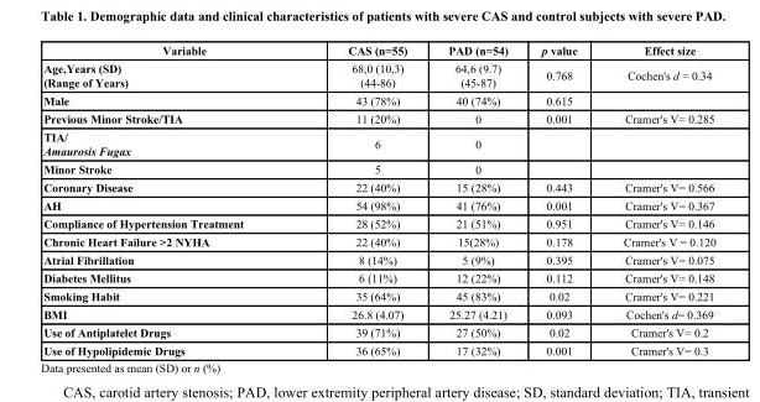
<table><thead><tr><td>Variable</td><td>CAS (n=55)</td><td>PAD (n=54)</td><td>p value</td><td>Effect size</td></tr></thead><tbody><tr><td>Age,Years (SD) (Range of Years)</td><td>68,0 (10,3) (44-86)</td><td>64,6 (9.7) (45-87)</td><td>0.768</td><td>Cochen&#x27;s d = 0.34</td></tr><tr><td>Male</td><td>43 (78%)</td><td>40 (74%)</td><td>0.615</td><td></td></tr><tr><td>Previous Minor Stroke/TIA</td><td>11 (20%)</td><td>0</td><td>0.001</td><td>Cramer&#x27;s V= 0.285</td></tr><tr><td>TIA/ Amaurosis Fugax</td><td>6</td><td>0</td><td></td><td></td></tr><tr><td>Minor Stroke</td><td>5</td><td>0</td><td></td><td></td></tr><tr><td>Coronary Disease</td><td>22 (40%)</td><td>15 (28%)</td><td>0.443</td><td>Cramer&#x27;s V= 0.566</td></tr><tr><td>AH</td><td>54 (98%)</td><td>41 (76%)</td><td>0.001</td><td>Cramer&#x27;s V= 0.367</td></tr><tr><td>Compliance of Hypertension Treatment</td><td>28 (52%)</td><td>21 (51%)</td><td>0.951</td><td>Cramer&#x27;s V= 0.146</td></tr><tr><td>Chronic Heart Failure &gt;2 NYHA</td><td>22 (40%)</td><td>15(28%)</td><td>0.178</td><td>Cramer&#x27;s V = 0.120</td></tr><tr><td>Atrial Fibrillation</td><td>8 (14%)</td><td>5 (9%)</td><td>0.395</td><td>Cramer&#x27;s V= 0.075</td></tr><tr><td>Diabetes Mellitus</td><td>6 (11%)</td><td>12 (22%)</td><td>0.112</td><td>Cramer&#x27;s V= 0.148</td></tr><tr><td>Smoking Habit</td><td>35 (64%)</td><td>45 (83%)</td><td>0.02</td><td>Cramer&#x27;s V= 0.221</td></tr><tr><td>BMI</td><td>26.8 (4.07)</td><td>25.27 (4.21)</td><td>0.093</td><td>Cochen&#x27;s d= 0.369</td></tr><tr><td>Use of Antiplatelet Drugs</td><td>39 (71%)</td><td>27 (50%)</td><td>0.02</td><td>Cramer&#x27;s V= 0.2</td></tr><tr><td>Use of Hypolipidemic Drugs</td><td>36 (65%)</td><td>17 (32%)</td><td>0.001</td><td>Cramer&#x27;s V= 0.3</td></tr></tbody></table>